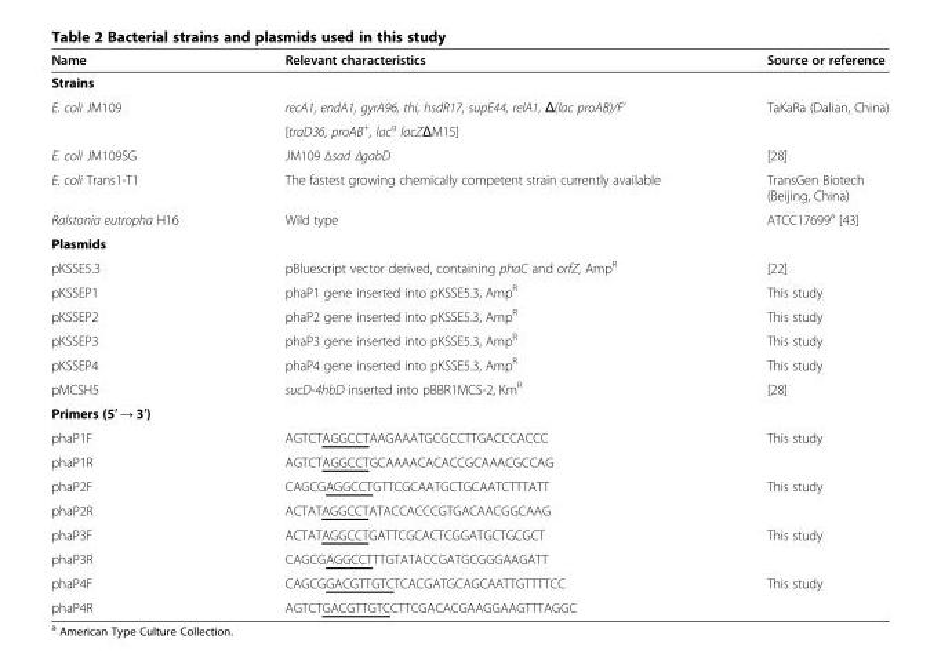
<table><thead><tr><td>Name</td><td>Relevant characteristics</td><td>Source or reference</td></tr></thead><tbody><tr><td colspan="3">Strains</td></tr><tr><td rowspan="2">E. coli JM109</td><td>recA1, endA1, gyrA96, thi, hsdR17, supE44, relA1, Δ(lac proAB)/F’</td><td>TaKaRa (Dalian, China)</td></tr><tr><td>[traD36, proAB<sup>+</sup>, lac<sup>q</sup> lacZΔM15]</td><td></td></tr><tr><td>E. coli JM109SG</td><td>JM109 Δsad ΔgabD</td><td>[28]</td></tr><tr><td>E. coli Trans1-T1</td><td>The fastest growing chemically competent strain currently available</td><td>TransGen Biotech (Beijing, China)</td></tr><tr><td>Ralstonia eutropha H16</td><td>Wild type</td><td>ATCC17699<sup>a</sup> [43]</td></tr><tr><td colspan="3">Plasmids</td></tr><tr><td>pKSSE5.3</td><td>pBluescript vector derived, containing phaC and orfZ, Amp<sup>R</sup></td><td>[22]</td></tr><tr><td>pKSSEP1</td><td>phaP1 gene inserted into pKSSE5.3, Amp<sup>R</sup></td><td>This study</td></tr><tr><td>pKSSEP2</td><td>phaP2 gene inserted into pKSSE5.3, Amp<sup>R</sup></td><td>This study</td></tr><tr><td>pKSSEP3</td><td>phaP3 gene inserted into pKSSE5.3, Amp<sup>R</sup></td><td>This study</td></tr><tr><td>pKSSEP4</td><td>phaP4 gene inserted into pKSSE5.3, Amp<sup>R</sup></td><td>This study</td></tr><tr><td>pMCSH5</td><td>sucD-4hbD inserted into pBBR1MCS-2, Km<sup>R</sup></td><td>[28]</td></tr><tr><td colspan="3">Primers (5′ → 3′)</td></tr><tr><td>phaP1F</td><td>AGTCTAGGCCTAAGAAATGCGCCTTGACCCACCC</td><td>This study</td></tr><tr><td>phaP1R</td><td>AGTCTAGGCCTGCAAAACACACCGCAAACGCCAG</td><td></td></tr><tr><td>phaP2F</td><td>CAGCGAGGCCTGTTCGCAATGCTGCAATCTTTATT</td><td>This study</td></tr><tr><td>phaP2R</td><td>ACTATAGGCCTATACCACCCGTGACAACGGCAAG</td><td></td></tr><tr><td>phaP3F</td><td>ACTATAGGCCTGATTCGCACTCGGATGCTGCGCT</td><td>This study</td></tr><tr><td>phaP3R</td><td>CAGCGAGGCCTTTGTATACCGATGCGGGAAGATT</td><td></td></tr><tr><td>phaP4F</td><td>CAGCGGACGTTGTCTCACGATGCAGCAATTGTTTTCC</td><td>This study</td></tr><tr><td>phaP4R</td><td>AGTCTGACGTTGTCCTTCGACACGAAGGAAGTTTAGGC</td><td></td></tr></tbody></table>